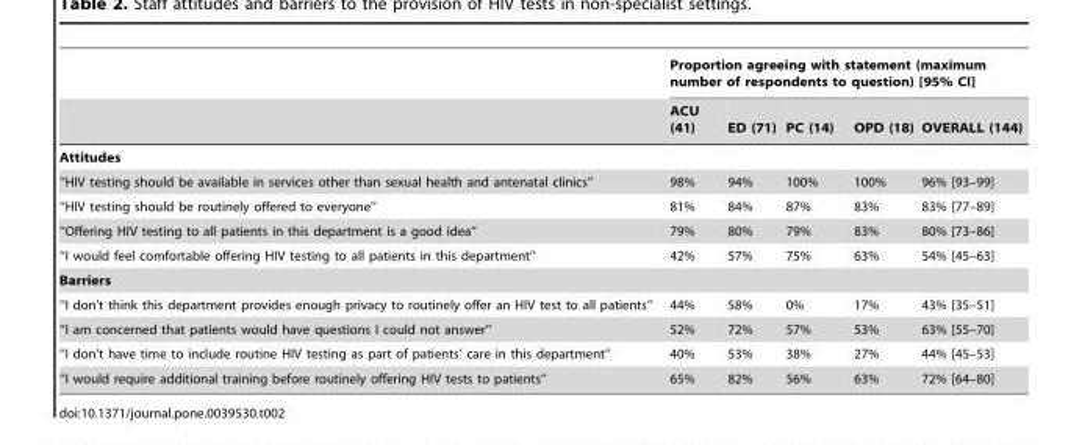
<table><thead><tr><td rowspan="2"></td><td colspan="5">Proportion agreeing with statement (maximum number of respondents to question) [95% CI]</td></tr><tr><td>ACU (41)</td><td>ED (71)</td><td>PC (14)</td><td>OPD (18)</td><td>OVERALL (144)</td></tr></thead><tbody><tr><td colspan="6">Attitudes</td></tr><tr><td>‘‘HIV testing should be available in services other than sexual health and antenatal clinics’’</td><td>98%</td><td>94%</td><td>100%</td><td>100%</td><td>96% [93–99]</td></tr><tr><td>‘‘HIV testing should be routinely offered to everyone’’</td><td>81%</td><td>84%</td><td>87%</td><td>83%</td><td>83% [77–89]</td></tr><tr><td>‘‘Offering HIV testing to all patients in this department is a good idea’’</td><td>79%</td><td>80%</td><td>79%</td><td>83%</td><td>80% [73–86]</td></tr><tr><td>‘‘I would feel comfortable offering HIV testing to all patients in this department’’</td><td>42%</td><td>57%</td><td>75%</td><td>63%</td><td>54% [45–63]</td></tr><tr><td colspan="6">Barriers</td></tr><tr><td>‘‘I don’t think this department provides enough privacy to routinely offer an HIV test to all patients’’</td><td>44%</td><td>58%</td><td>0%</td><td>17%</td><td>43% [35–51]</td></tr><tr><td>‘‘I am concerned that patients would have questions I could not answer’’</td><td>52%</td><td>72%</td><td>57%</td><td>53%</td><td>63% [55–70]</td></tr><tr><td>‘‘I don’t have time to include routine HIV testing as part of patients’ care in this department’’</td><td>40%</td><td>53%</td><td>38%</td><td>27%</td><td>44% [45–53]</td></tr><tr><td>‘‘I would require additional training before routinely offering HIV tests to patients’’</td><td>65%</td><td>82%</td><td>56%</td><td>63%</td><td>72% [64–80]</td></tr></tbody></table>